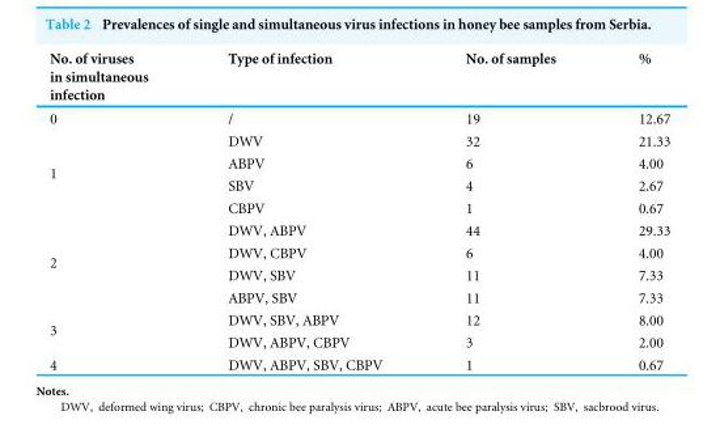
<table><thead><tr><td>No. of viruses in simultaneous infection</td><td>Type of infection</td><td>No. of samples</td><td>%</td></tr></thead><tbody><tr><td>0</td><td>/</td><td>19</td><td>12.67</td></tr><tr><td rowspan="4">1</td><td>DWV</td><td>32</td><td>21.33</td></tr><tr><td>ABPV</td><td>6</td><td>4.00</td></tr><tr><td>SBV</td><td>4</td><td>2.67</td></tr><tr><td>CBPV</td><td>1</td><td>0.67</td></tr><tr><td rowspan="4">2</td><td>DWV, ABPV</td><td>44</td><td>29.33</td></tr><tr><td>DWV, CBPV</td><td>6</td><td>4.00</td></tr><tr><td>DWV, SBV</td><td>11</td><td>7.33</td></tr><tr><td>ABPV, SBV</td><td>11</td><td>7.33</td></tr><tr><td rowspan="2">3</td><td>DWV, SBV, ABPV</td><td>12</td><td>8.00</td></tr><tr><td>DWV, ABPV, CBPV</td><td>3</td><td>2.00</td></tr><tr><td>4</td><td>DWV, ABPV, SBV, CBPV</td><td>1</td><td>0.67</td></tr></tbody></table>